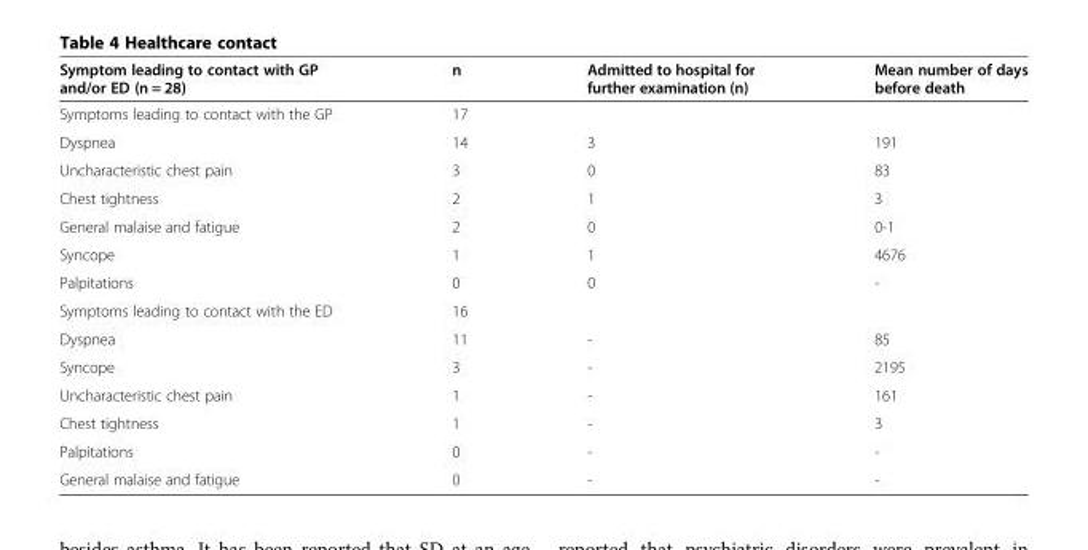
<table><thead><tr><td>Symptom leading to contact with GP and/or ED (n = 28)</td><td>n</td><td>Admitted to hospital for further examination (n)</td><td>Mean number of days before death</td></tr></thead><tbody><tr><td>Symptoms leading to contact with the GP</td><td>17</td><td></td><td></td></tr><tr><td>Dyspnea</td><td>14</td><td>3</td><td>191</td></tr><tr><td>Uncharacteristic chest pain</td><td>3</td><td>0</td><td>83</td></tr><tr><td>Chest tightness</td><td>2</td><td>1</td><td>3</td></tr><tr><td>General malaise and fatigue</td><td>2</td><td>0</td><td>0-1</td></tr><tr><td>Syncope</td><td>1</td><td>1</td><td>4676</td></tr><tr><td>Palpitations</td><td>0</td><td>0</td><td>-</td></tr><tr><td>Symptoms leading to contact with the ED</td><td>16</td><td></td><td></td></tr><tr><td>Dyspnea</td><td>11</td><td>-</td><td>85</td></tr><tr><td>Syncope</td><td>3</td><td>-</td><td>2195</td></tr><tr><td>Uncharacteristic chest pain</td><td>1</td><td>-</td><td>161</td></tr><tr><td>Chest tightness</td><td>1</td><td>-</td><td>3</td></tr><tr><td>Palpitations</td><td>0</td><td>-</td><td>-</td></tr><tr><td>General malaise and fatigue</td><td>0</td><td>-</td><td>-</td></tr></tbody></table>